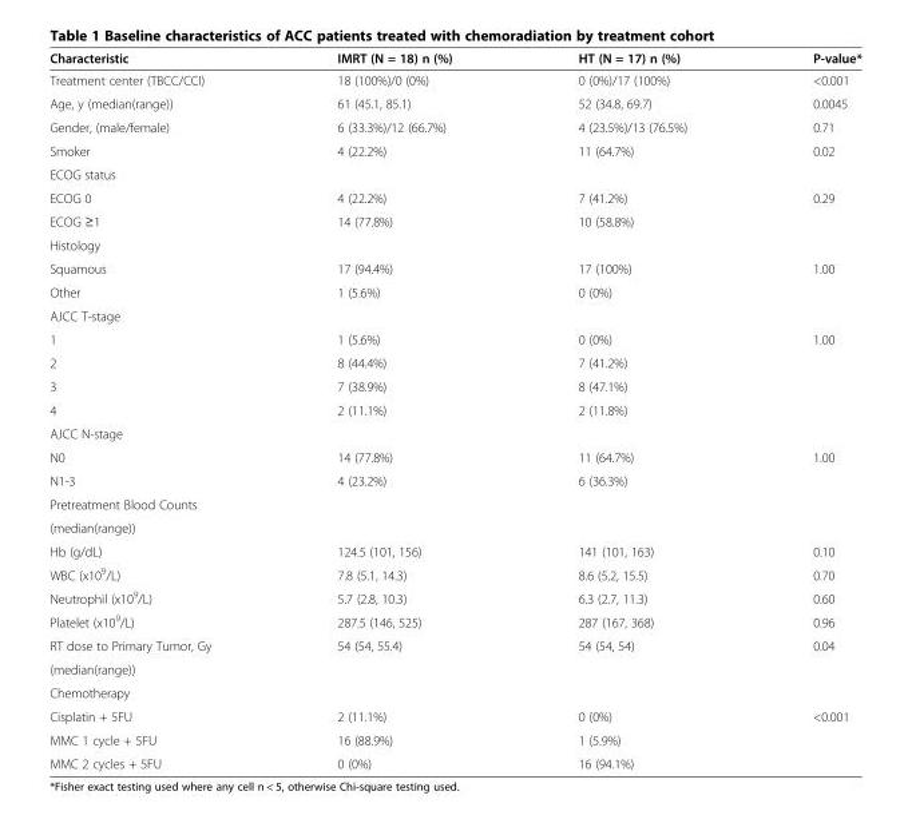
<table><thead><tr><td>Characteristic</td><td>IMRT (N = 18) n (%)</td><td>HT (N = 17) n (%)</td><td>P-value*</td></tr></thead><tbody><tr><td>Treatment center (TBCC/CCI)</td><td>18 (100%)/0 (0%)</td><td>0 (0%)/17 (100%)</td><td>&lt;0.001</td></tr><tr><td>Age, y (median(range))</td><td>61 (45.1, 85.1)</td><td>52 (34.8, 69.7)</td><td>0.0045</td></tr><tr><td>Gender, (male/female)</td><td>6 (33.3%)/12 (66.7%)</td><td>4 (23.5%)/13 (76.5%)</td><td>0.71</td></tr><tr><td>Smoker</td><td>4 (22.2%)</td><td>11 (64.7%)</td><td>0.02</td></tr><tr><td colspan="4">ECOG status</td></tr><tr><td>ECOG 0</td><td>4 (22.2%)</td><td>7 (41.2%)</td><td>0.29</td></tr><tr><td>ECOG ≥1</td><td>14 (77.8%)</td><td>10 (58.8%)</td><td></td></tr><tr><td colspan="4">Histology</td></tr><tr><td>Squamous</td><td>17 (94.4%)</td><td>17 (100%)</td><td>1.00</td></tr><tr><td>Other</td><td>1 (5.6%)</td><td>0 (0%)</td><td></td></tr><tr><td colspan="4">AJCC T-stage</td></tr><tr><td>1</td><td>1 (5.6%)</td><td>0 (0%)</td><td>1.00</td></tr><tr><td>2</td><td>8 (44.4%)</td><td>7 (41.2%)</td><td></td></tr><tr><td>3</td><td>7 (38.9%)</td><td>8 (47.1%)</td><td></td></tr><tr><td>4</td><td>2 (11.1%)</td><td>2 (11.8%)</td><td></td></tr><tr><td colspan="4">AJCC N-stage</td></tr><tr><td>N0</td><td>14 (77.8%)</td><td>11 (64.7%)</td><td>1.00</td></tr><tr><td>N1-3</td><td>4 (23.2%)</td><td>6 (36.3%)</td><td></td></tr><tr><td colspan="4">Pretreatment Blood Counts</td></tr><tr><td colspan="4">(median(range))</td></tr><tr><td>Hb (g/dL)</td><td>124.5 (101, 156)</td><td>141 (101, 163)</td><td>0.10</td></tr><tr><td>WBC (x10<sup>9</sup>/L)</td><td>7.8 (5.1, 14.3)</td><td>8.6 (5.2, 15.5)</td><td>0.70</td></tr><tr><td>Neutrophil (x10<sup>9</sup>/L)</td><td>5.7 (2.8, 10.3)</td><td>6.3 (2.7, 11.3)</td><td>0.60</td></tr><tr><td>Platelet (x10<sup>9</sup>/L)</td><td>287.5 (146, 525)</td><td>287 (167, 368)</td><td>0.96</td></tr><tr><td>RT dose to Primary Tumor, Gy</td><td>54 (54, 55.4)</td><td>54 (54, 54)</td><td>0.04</td></tr><tr><td colspan="4">(median(range))</td></tr><tr><td colspan="4">Chemotherapy</td></tr><tr><td>Cisplatin + 5FU</td><td>2 (11.1%)</td><td>0 (0%)</td><td>&lt;0.001</td></tr><tr><td>MMC 1 cycle + 5FU</td><td>16 (88.9%)</td><td>1 (5.9%)</td><td></td></tr><tr><td>MMC 2 cycles + 5FU</td><td>0 (0%)</td><td>16 (94.1%)</td><td></td></tr></tbody></table>